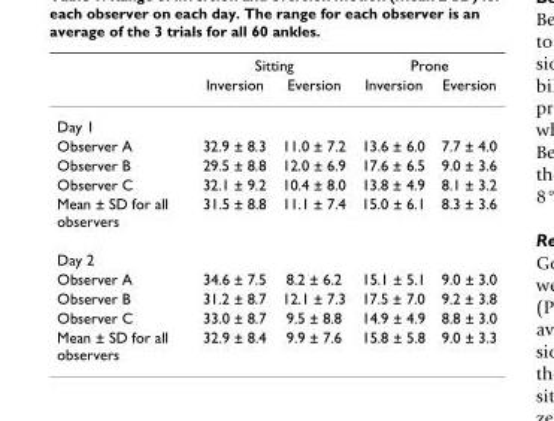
<table><thead><tr><td rowspan="2"></td><td colspan="2">Sitting</td><td colspan="2">Prone</td></tr><tr><td>Inversion</td><td>Eversion</td><td>Inversion</td><td>Eversion</td></tr></thead><tbody><tr><td colspan="5">Day 1</td></tr><tr><td>Observer A</td><td>32.9 ± 8.3</td><td>11.0 ± 7.2</td><td>13.6 ± 6.0</td><td>7.7 ± 4.0</td></tr><tr><td>Observer B</td><td>29.5 ± 8.8</td><td>12.0 ± 6.9</td><td>17.6 ± 6.5</td><td>9.0 ± 3.6</td></tr><tr><td>Observer C</td><td>32.1 ± 9.2</td><td>10.4 ± 8.0</td><td>13.8 ± 4.9</td><td>8.1 ± 3.2</td></tr><tr><td>Mean ± SD for all observers</td><td>31.5 ± 8.8</td><td>11.1 ± 7.4</td><td>15.0 ± 6.1</td><td>8.3 ± 3.6</td></tr><tr><td colspan="5">Day 2</td></tr><tr><td>Observer A</td><td>34.6 ± 7.5</td><td>8.2 ± 6.2</td><td>15.1 ± 5.1</td><td>9.0 ± 3.0</td></tr><tr><td>Observer B</td><td>31.2 ± 8.7</td><td>12.1 ± 7.3</td><td>17.5 ± 7.0</td><td>9.2 ± 3.8</td></tr><tr><td>Observer C</td><td>33.0 ± 8.7</td><td>9.5 ± 8.8</td><td>14.9 ± 4.9</td><td>8.8 ± 3.0</td></tr><tr><td>Mean ± SD for all observers</td><td>32.9 ± 8.4</td><td>9.9 ± 7.6</td><td>15.8 ± 5.8</td><td>9.0 ± 3.3</td></tr></tbody></table>